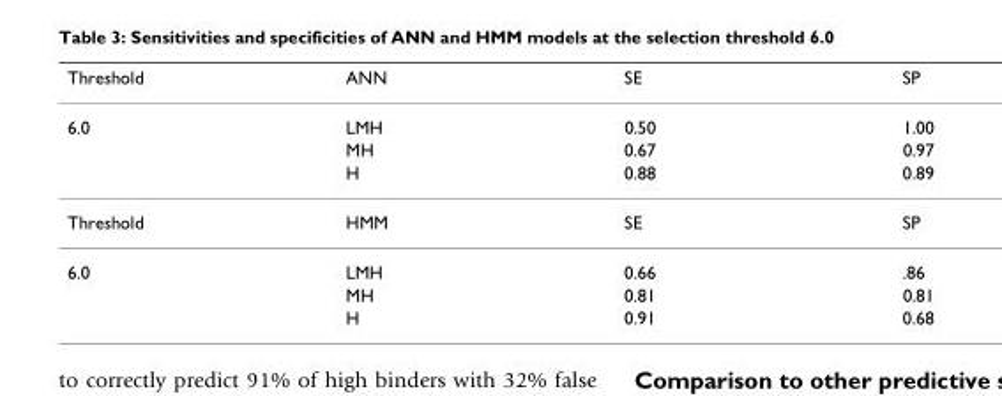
<table><thead><tr><td>Threshold</td><td>ANN</td><td>SE</td><td>SP</td></tr></thead><tbody><tr><td rowspan="3">6.0</td><td>LMH</td><td>0.50</td><td>1.00</td></tr><tr><td>MH</td><td>0.67</td><td>0.97</td></tr><tr><td>H</td><td>0.88</td><td>0.89</td></tr><tr><td>Threshold</td><td>HMM</td><td>SE</td><td>SP</td></tr><tr><td rowspan="3">6.0</td><td>LMH</td><td>0.66</td><td>.86</td></tr><tr><td>MH</td><td>0.81</td><td>0.81</td></tr><tr><td>H</td><td>0.91</td><td>0.68</td></tr></tbody></table>